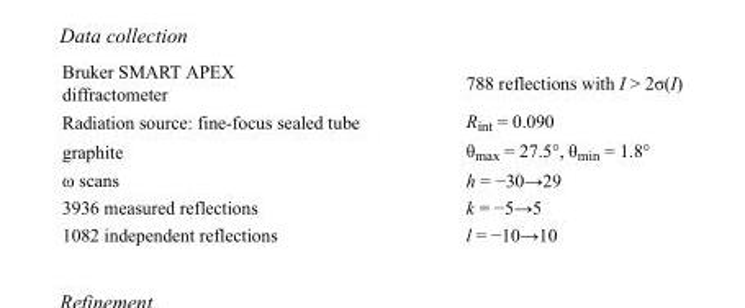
<table><tbody><tr><td>Bruker SMART APEX diffractometer</td><td>788 reflections with I &gt; 2σ(I)</td></tr><tr><td>Radiation source: fine-focus sealed tube</td><td>R<sub>int</sub> = 0.090</td></tr><tr><td>graphite</td><td>θ<sub>max</sub> = 27.5°, θ<sub>min</sub> = 1.8°</td></tr><tr><td>ω scans</td><td>h = −30→29</td></tr><tr><td>3936 measured reflections</td><td>k = −5→5</td></tr><tr><td>1082 independent reflections</td><td>l = −10→10</td></tr></tbody></table>